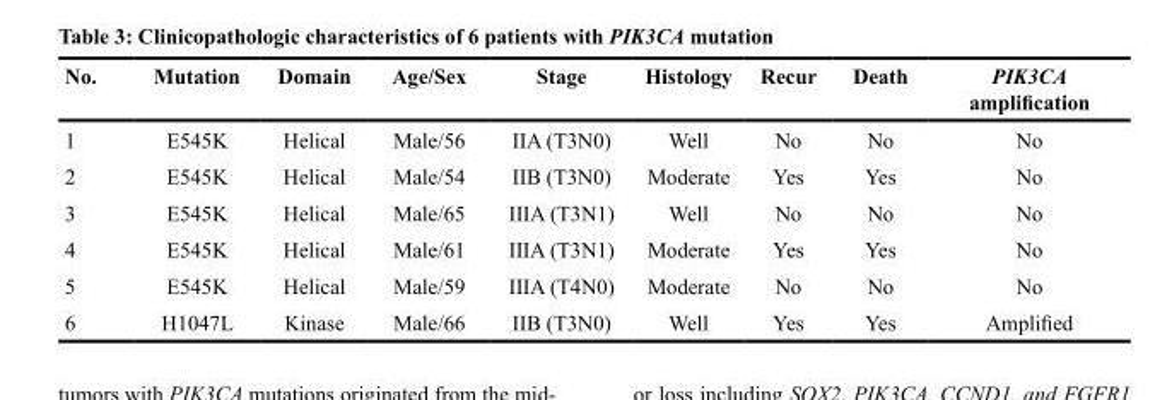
<table><thead><tr><td>No.</td><td>Mutation</td><td>Domain</td><td>Age/Sex</td><td>Stage</td><td>Histology</td><td>Recur</td><td>Death</td><td>PIK3CA amplification</td></tr></thead><tbody><tr><td>1</td><td>E545K</td><td>Helical</td><td>Male/56</td><td>IIA (T3N0)</td><td>Well</td><td>No</td><td>No</td><td>No</td></tr><tr><td>2</td><td>E545K</td><td>Helical</td><td>Male/54</td><td>IIB (T3N0)</td><td>Moderate</td><td>Yes</td><td>Yes</td><td>No</td></tr><tr><td>3</td><td>E545K</td><td>Helical</td><td>Male/65</td><td>IIIA (T3N1)</td><td>Well</td><td>No</td><td>No</td><td>No</td></tr><tr><td>4</td><td>E545K</td><td>Helical</td><td>Male/61</td><td>IIIA (T3N1)</td><td>Moderate</td><td>Yes</td><td>Yes</td><td>No</td></tr><tr><td>5</td><td>E545K</td><td>Helical</td><td>Male/59</td><td>IIIA (T4N0)</td><td>Moderate</td><td>No</td><td>No</td><td>No</td></tr><tr><td>6</td><td>H1047L</td><td>Kinase</td><td>Male/66</td><td>IIB (T3N0)</td><td>Well</td><td>Yes</td><td>Yes</td><td>Amplified</td></tr></tbody></table>